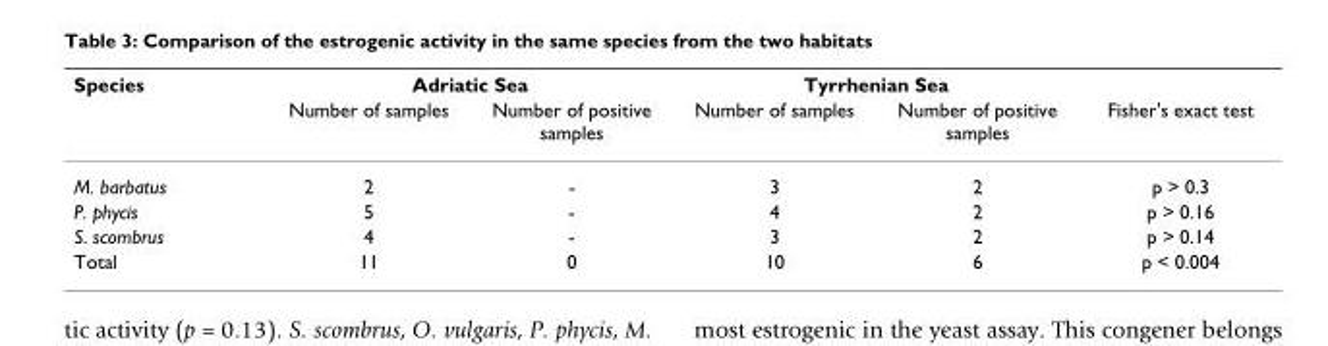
<table><thead><tr><td rowspan="2">Species</td><td colspan="2">Adriatic Sea</td><td colspan="2">Tyrrhenian Sea</td><td rowspan="2">Fisher&#x27;s exact test</td></tr><tr><td>Number of samples</td><td>Number of positive samples</td><td>Number of samples</td><td>Number of positive samples</td></tr></thead><tbody><tr><td>M. barbatus</td><td>2</td><td>-</td><td>3</td><td>2</td><td>p &gt; 0.3</td></tr><tr><td>P. phycis</td><td>5</td><td>-</td><td>4</td><td>2</td><td>p &gt; 0.16</td></tr><tr><td>S. scombrus</td><td>4</td><td>-</td><td>3</td><td>2</td><td>p &gt; 0.14</td></tr><tr><td>Total</td><td>11</td><td>0</td><td>10</td><td>6</td><td>p &lt; 0.004</td></tr></tbody></table>